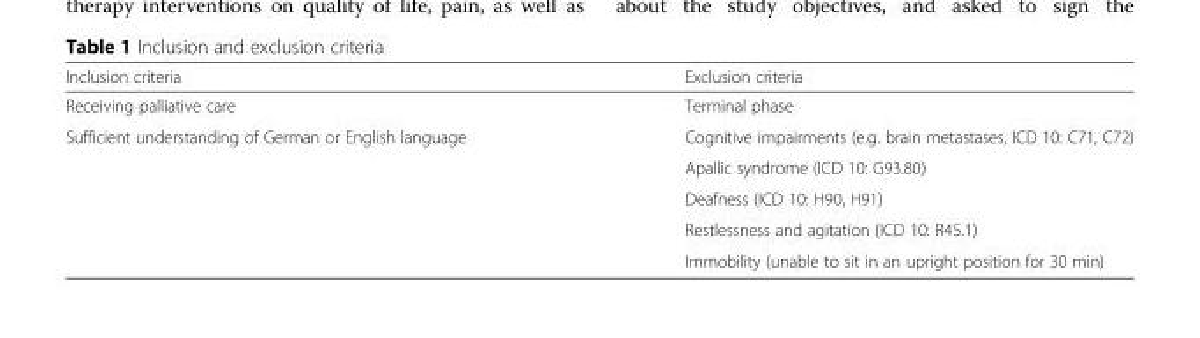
<table><thead><tr><td>Inclusion criteria</td><td>Exclusion criteria</td></tr></thead><tbody><tr><td>Receiving palliative care</td><td>Terminal phase</td></tr><tr><td rowspan="5">Sufficient understanding of German or English language</td><td>Cognitive impairments (e.g. brain metastases, ICD 10: C71, C72)</td></tr><tr><td>Apallic syndrome (ICD 10: G93.80)</td></tr><tr><td>Deafness (ICD 10: H90, H91)</td></tr><tr><td>Restlessness and agitation (ICD 10: R45.1)</td></tr><tr><td>Immobility (unable to sit in an upright position for 30 min)</td></tr></tbody></table>